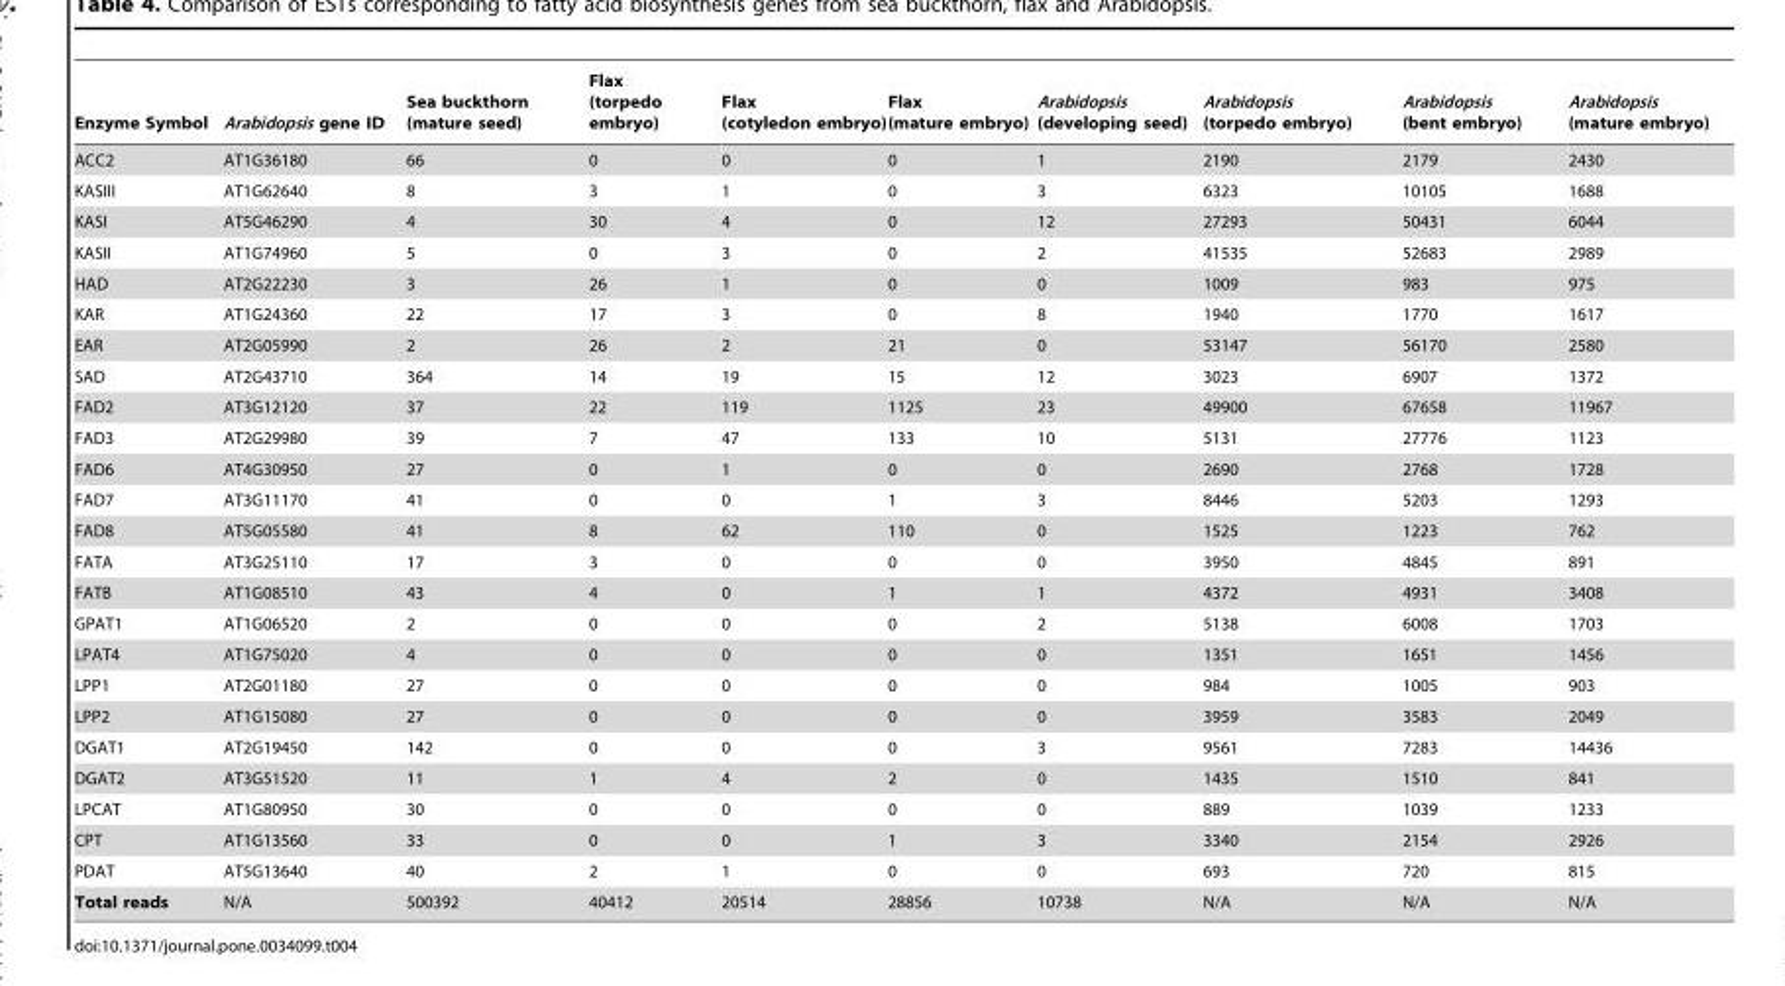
<table><thead><tr><td>Enzyme Symbol</td><td>Arabidopsis gene ID</td><td>Sea buckthorn (mature seed)</td><td>Flax (torpedo embryo)</td><td>Flax (cotyledon embryo)</td><td>Flax (mature embryo)</td><td>Arabidopsis (developing seed)</td><td>Arabidopsis (torpedo embryo)</td><td>Arabidopsis (bent embryo)</td><td>Arabidopsis (mature embryo)</td></tr></thead><tbody><tr><td>ACC2</td><td>AT1G36180</td><td>66</td><td>0</td><td>0</td><td>0</td><td>1</td><td>2190</td><td>2179</td><td>2430</td></tr><tr><td>KASIII</td><td>AT1G62640</td><td>8</td><td>3</td><td>1</td><td>0</td><td>3</td><td>6323</td><td>10105</td><td>1688</td></tr><tr><td>KASI</td><td>AT5G46290</td><td>4</td><td>30</td><td>4</td><td>0</td><td>12</td><td>27293</td><td>50431</td><td>6044</td></tr><tr><td>KASII</td><td>AT1G74960</td><td>5</td><td>0</td><td>3</td><td>0</td><td>2</td><td>41535</td><td>52683</td><td>2989</td></tr><tr><td>HAD</td><td>AT2G22230</td><td>3</td><td>26</td><td>1</td><td>0</td><td>0</td><td>1009</td><td>983</td><td>975</td></tr><tr><td>KAR</td><td>AT1G24360</td><td>22</td><td>17</td><td>3</td><td>0</td><td>8</td><td>1940</td><td>1770</td><td>1617</td></tr><tr><td>EAR</td><td>AT2G05990</td><td>2</td><td>26</td><td>2</td><td>21</td><td>0</td><td>53147</td><td>56170</td><td>2580</td></tr><tr><td>SAD</td><td>AT2G43710</td><td>364</td><td>14</td><td>19</td><td>15</td><td>12</td><td>3023</td><td>6907</td><td>1372</td></tr><tr><td>FAD2</td><td>AT3G12120</td><td>37</td><td>22</td><td>119</td><td>1125</td><td>23</td><td>49900</td><td>67658</td><td>11967</td></tr><tr><td>FAD3</td><td>AT2G29980</td><td>39</td><td>7</td><td>47</td><td>133</td><td>10</td><td>5131</td><td>27776</td><td>1123</td></tr><tr><td>FAD6</td><td>AT4G30950</td><td>27</td><td>0</td><td>1</td><td>0</td><td>0</td><td>2690</td><td>2768</td><td>1728</td></tr><tr><td>FAD7</td><td>AT3G11170</td><td>41</td><td>0</td><td>0</td><td>1</td><td>3</td><td>8446</td><td>5203</td><td>1293</td></tr><tr><td>FAD8</td><td>AT5G05580</td><td>41</td><td>8</td><td>62</td><td>110</td><td>0</td><td>1525</td><td>1223</td><td>762</td></tr><tr><td>FATA</td><td>AT3G25110</td><td>17</td><td>3</td><td>0</td><td>0</td><td>0</td><td>3950</td><td>4845</td><td>891</td></tr><tr><td>FATB</td><td>AT1G08510</td><td>43</td><td>4</td><td>0</td><td>1</td><td>1</td><td>4372</td><td>4931</td><td>3408</td></tr><tr><td>GPAT1</td><td>AT1G06520</td><td>2</td><td>0</td><td>0</td><td>0</td><td>2</td><td>5138</td><td>6008</td><td>1703</td></tr><tr><td>LPAT4</td><td>AT1G75020</td><td>4</td><td>0</td><td>0</td><td>0</td><td>0</td><td>1351</td><td>1651</td><td>1456</td></tr><tr><td>LPP1</td><td>AT2G01180</td><td>27</td><td>0</td><td>0</td><td>0</td><td>0</td><td>984</td><td>1005</td><td>903</td></tr><tr><td>LPP2</td><td>AT1G15080</td><td>27</td><td>0</td><td>0</td><td>0</td><td>0</td><td>3959</td><td>3583</td><td>2049</td></tr><tr><td>DGAT1</td><td>AT2G19450</td><td>142</td><td>0</td><td>0</td><td>0</td><td>3</td><td>9561</td><td>7283</td><td>14436</td></tr><tr><td>DGAT2</td><td>AT3G51520</td><td>11</td><td>1</td><td>4</td><td>2</td><td>0</td><td>1435</td><td>1510</td><td>841</td></tr><tr><td>LPCAT</td><td>AT1G80950</td><td>30</td><td>0</td><td>0</td><td>0</td><td>0</td><td>889</td><td>1039</td><td>1233</td></tr><tr><td>CPT</td><td>AT1G13560</td><td>33</td><td>0</td><td>0</td><td>1</td><td>3</td><td>3340</td><td>2154</td><td>2926</td></tr><tr><td>PDAT</td><td>AT5G13640</td><td>40</td><td>2</td><td>1</td><td>0</td><td>0</td><td>693</td><td>720</td><td>815</td></tr><tr><td>Total reads</td><td>N/A</td><td>500392</td><td>40412</td><td>20514</td><td>28856</td><td>10738</td><td>N/A</td><td>N/A</td><td>N/A</td></tr></tbody></table>